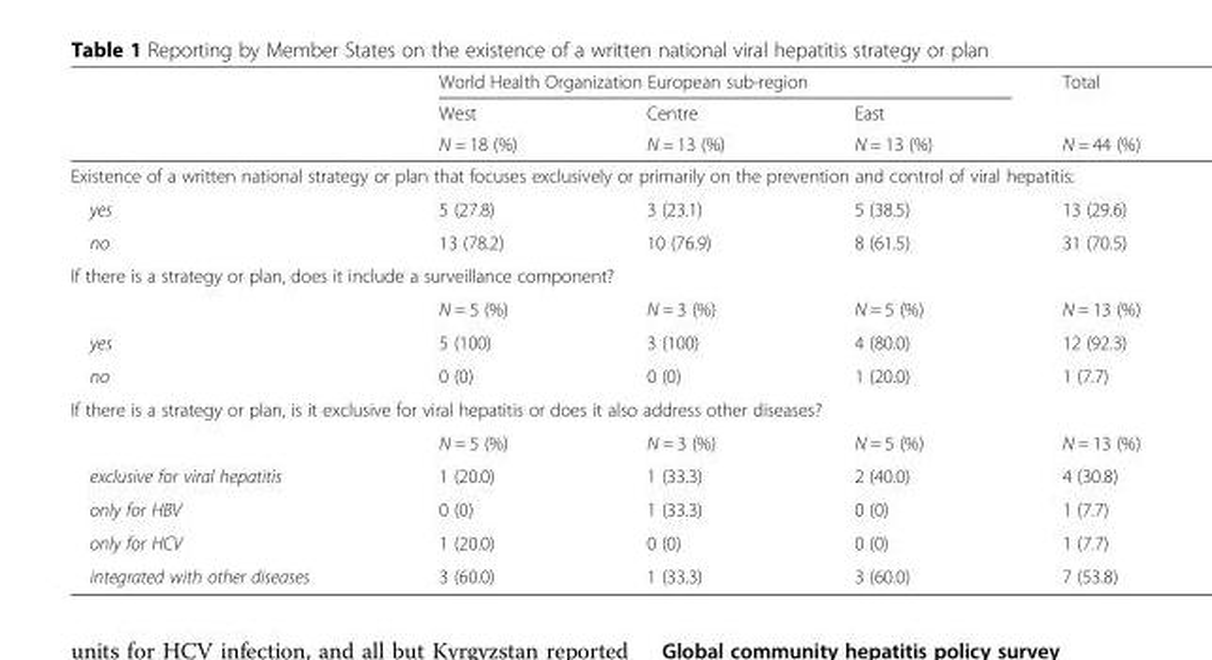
<table><thead><tr><td rowspan="3"></td><td colspan="3">World Health Organization European sub-region</td><td rowspan="3">Total N = 44 (%)</td></tr><tr><td rowspan="2">West N = 18 (%)</td><td rowspan="2">Centre N = 13 (%)</td><td rowspan="2">East N = 13 (%)</td></tr><tr></tr></thead><tbody><tr><td colspan="5">Existence of a written national strategy or plan that focuses exclusively or primarily on the prevention and control of viral hepatitis:</td></tr><tr><td>yes</td><td>5 (27.8)</td><td>3 (23.1)</td><td>5 (38.5)</td><td>13 (29.6)</td></tr><tr><td>no</td><td>13 (78.2)</td><td>10 (76.9)</td><td>8 (61.5)</td><td>31 (70.5)</td></tr><tr><td colspan="5">If there is a strategy or plan, does it include a surveillance component?</td></tr><tr><td></td><td>N = 5 (%)</td><td>N = 3 (%)</td><td>N = 5 (%)</td><td>N = 13 (%)</td></tr><tr><td>yes</td><td>5 (100)</td><td>3 (100)</td><td>4 (80.0)</td><td>12 (92.3)</td></tr><tr><td>no</td><td>0 (0)</td><td>0 (0)</td><td>1 (20.0)</td><td>1 (7.7)</td></tr><tr><td colspan="5">If there is a strategy or plan, is it exclusive for viral hepatitis or does it also address other diseases?</td></tr><tr><td></td><td>N = 5 (%)</td><td>N = 3 (%)</td><td>N = 5 (%)</td><td>N = 13 (%)</td></tr><tr><td>exclusive for viral hepatitis</td><td>1 (20.0)</td><td>1 (33.3)</td><td>2 (40.0)</td><td>4 (30.8)</td></tr><tr><td>only for HBV</td><td>0 (0)</td><td>1 (33.3)</td><td>0 (0)</td><td>1 (7.7)</td></tr><tr><td>only for HCV</td><td>1 (20.0)</td><td>0 (0)</td><td>0 (0)</td><td>1 (7.7)</td></tr><tr><td>integrated with other diseases</td><td>3 (60.0)</td><td>1 (33.3)</td><td>3 (60.0)</td><td>7 (53.8)</td></tr></tbody></table>